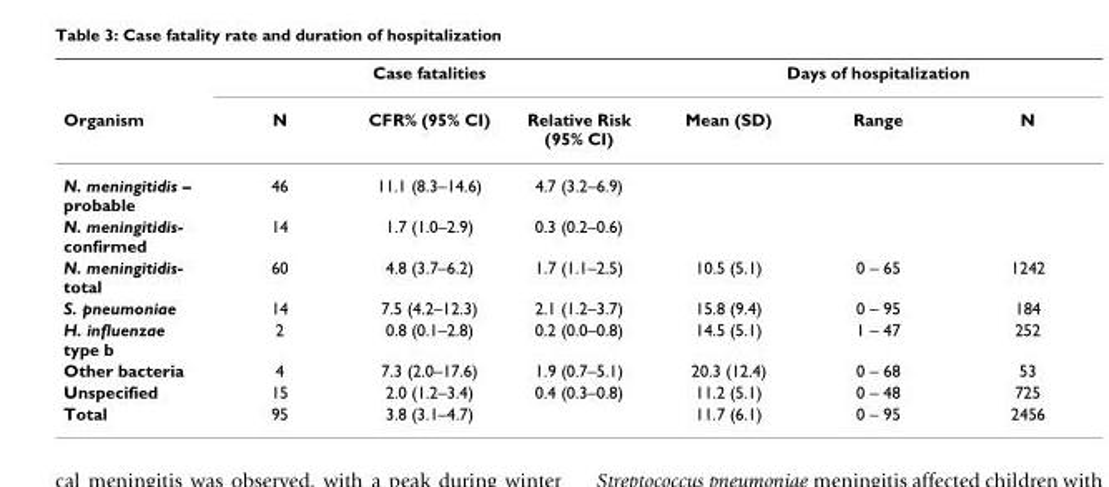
<table><thead><tr><td rowspan="2">Organism</td><td colspan="3">Case fatalities</td><td colspan="3">Days of hospitalization</td></tr><tr><td>N</td><td>CFR% (95% CI)</td><td>Relative Risk (95% CI)</td><td>Mean (SD)</td><td>Range</td><td>N</td></tr></thead><tbody><tr><td>N. meningitidis – probable</td><td>46</td><td>11.1 (8.3–14.6)</td><td>4.7 (3.2–6.9)</td><td></td><td></td><td></td></tr><tr><td>N. meningitidis- confirmed</td><td>14</td><td>1.7 (1.0–2.9)</td><td>0.3 (0.2–0.6)</td><td></td><td></td><td></td></tr><tr><td>N. meningitidis- total</td><td>60</td><td>4.8 (3.7–6.2)</td><td>1.7 (1.1–2.5)</td><td>10.5 (5.1)</td><td>0 – 65</td><td>1242</td></tr><tr><td>S. pneumoniae</td><td>14</td><td>7.5 (4.2–12.3)</td><td>2.1 (1.2–3.7)</td><td>15.8 (9.4)</td><td>0 – 95</td><td>184</td></tr><tr><td>H. influenzae type b</td><td>2</td><td>0.8 (0.1–2.8)</td><td>0.2 (0.0–0.8)</td><td>14.5 (5.1)</td><td>1 – 47</td><td>252</td></tr><tr><td>Other bacteria</td><td>4</td><td>7.3 (2.0–17.6)</td><td>1.9 (0.7–5.1)</td><td>20.3 (12.4)</td><td>0 – 68</td><td>53</td></tr><tr><td>Unspecified</td><td>15</td><td>2.0 (1.2–3.4)</td><td>0.4 (0.3–0.8)</td><td>11.2 (5.1)</td><td>0 – 48</td><td>725</td></tr><tr><td>Total</td><td>95</td><td>3.8 (3.1–4.7)</td><td></td><td>11.7 (6.1)</td><td>0 – 95</td><td>2456</td></tr></tbody></table>